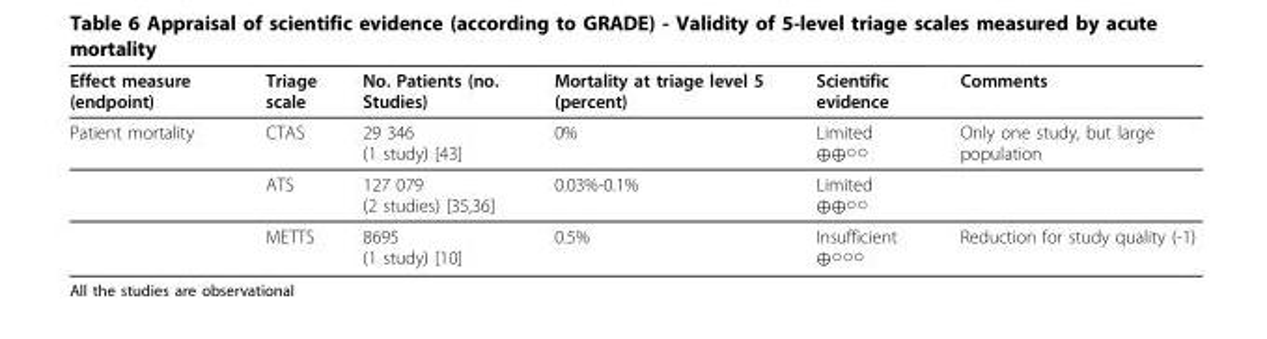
<table><thead><tr><td>Effect measure (endpoint)</td><td>Triage scale</td><td>No. Patients (no. Studies)</td><td>Mortality at triage level 5 (percent)</td><td>Scientific evidence</td><td>Comments</td></tr></thead><tbody><tr><td rowspan="3">Patient mortality</td><td>CTAS</td><td>29 346 (1 study) [43]</td><td>0%</td><td>Limited ⊕⊕○○</td><td>Only one study, but large population</td></tr><tr><td>ATS</td><td>127 079 (2 studies) [35,36]</td><td>0.03%-0.1%</td><td>Limited ⊕⊕○○</td><td></td></tr><tr><td>METTS</td><td>8695 (1 study) [10]</td><td>0.5%</td><td>Insufficient ⊕○○○</td><td>Reduction for study quality (-1)</td></tr></tbody></table>